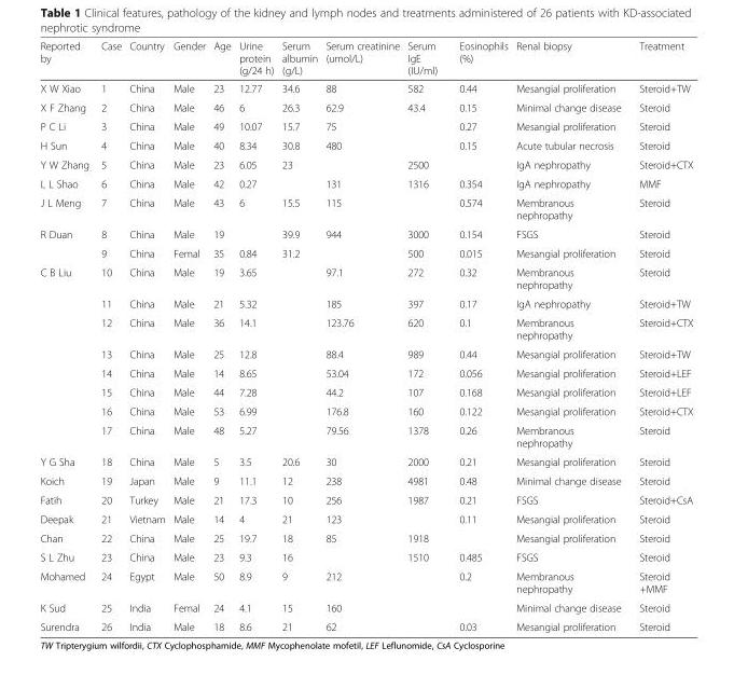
<table><thead><tr><td>Reported by</td><td>Case</td><td>Country</td><td>Gender</td><td>Age</td><td>Urine protein (g/24 h)</td><td>Serum albumin (g/L)</td><td>Serum creatinine (umol/L)</td><td>Serum IgE (IU/ml)</td><td>Eosinophils (%)</td><td>Renal biopsy</td><td>Treatment</td></tr></thead><tbody><tr><td>X W Xiao</td><td>1</td><td>China</td><td>Male</td><td>23</td><td>12.77</td><td>34.6</td><td>88</td><td>582</td><td>0.44</td><td>Mesangial proliferation</td><td>Steroid+TW</td></tr><tr><td>X F Zhang</td><td>2</td><td>China</td><td>Male</td><td>46</td><td>6</td><td>26.3</td><td>62.9</td><td>43.4</td><td>0.15</td><td>Minimal change disease</td><td>Steroid</td></tr><tr><td>P C Li</td><td>3</td><td>China</td><td>Male</td><td>49</td><td>10.07</td><td>15.7</td><td>75</td><td></td><td>0.27</td><td>Mesangial proliferation</td><td>Steroid</td></tr><tr><td>H Sun</td><td>4</td><td>China</td><td>Male</td><td>40</td><td>8.34</td><td>30.8</td><td>480</td><td></td><td>0.15</td><td>Acute tubular necrosis</td><td>Steroid</td></tr><tr><td>Y W Zhang</td><td>5</td><td>China</td><td>Male</td><td>23</td><td>6.05</td><td>23</td><td></td><td>2500</td><td></td><td>IgA nephropathy</td><td>Steroid+CTX</td></tr><tr><td>L L Shao</td><td>6</td><td>China</td><td>Male</td><td>42</td><td>0.27</td><td></td><td>131</td><td>1316</td><td>0.354</td><td>IgA nephropathy</td><td>MMF</td></tr><tr><td>J L Meng</td><td>7</td><td>China</td><td>Male</td><td>43</td><td>6</td><td>15.5</td><td>115</td><td></td><td>0.574</td><td>Membranous nephropathy</td><td>Steroid</td></tr><tr><td rowspan="2">R Duan</td><td>8</td><td>China</td><td>Male</td><td>19</td><td></td><td>39.9</td><td>944</td><td>3000</td><td>0.154</td><td>FSGS</td><td>Steroid</td></tr><tr><td>9</td><td>China</td><td>Femal</td><td>35</td><td>0.84</td><td>31.2</td><td></td><td>500</td><td>0.015</td><td>Mesangial proliferation</td><td>Steroid</td></tr><tr><td rowspan="8">C B Liu</td><td>10</td><td>China</td><td>Male</td><td>19</td><td>3.65</td><td></td><td>97.1</td><td>272</td><td>0.32</td><td>Membranous nephropathy</td><td>Steroid</td></tr><tr><td>11</td><td>China</td><td>Male</td><td>21</td><td>5.32</td><td></td><td>185</td><td>397</td><td>0.17</td><td>IgA nephropathy</td><td>Steroid+TW</td></tr><tr><td>12</td><td>China</td><td>Male</td><td>36</td><td>14.1</td><td></td><td>123.76</td><td>620</td><td>0.1</td><td>Membranous nephropathy</td><td>Steroid+CTX</td></tr><tr><td>13</td><td>China</td><td>Male</td><td>25</td><td>12.8</td><td></td><td>88.4</td><td>989</td><td>0.44</td><td>Mesangial proliferation</td><td>Steroid+TW</td></tr><tr><td>14</td><td>China</td><td>Male</td><td>14</td><td>8.65</td><td></td><td>53.04</td><td>172</td><td>0.056</td><td>Mesangial proliferation</td><td>Steroid+LEF</td></tr><tr><td>15</td><td>China</td><td>Male</td><td>44</td><td>7.28</td><td></td><td>44.2</td><td>107</td><td>0.168</td><td>Mesangial proliferation</td><td>Steroid+LEF</td></tr><tr><td>16</td><td>China</td><td>Male</td><td>53</td><td>6.99</td><td></td><td>176.8</td><td>160</td><td>0.122</td><td>Mesangial proliferation</td><td>Steroid+CTX</td></tr><tr><td>17</td><td>China</td><td>Male</td><td>48</td><td>5.27</td><td></td><td>79.56</td><td>1378</td><td>0.26</td><td>Membranous nephropathy</td><td>Steroid</td></tr><tr><td>Y G Sha</td><td>18</td><td>China</td><td>Male</td><td>5</td><td>3.5</td><td>20.6</td><td>30</td><td>2000</td><td>0.21</td><td>Mesangial proliferation</td><td>Steroid</td></tr><tr><td>Koich</td><td>19</td><td>Japan</td><td>Male</td><td>9</td><td>11.1</td><td>12</td><td>238</td><td>4981</td><td>0.48</td><td>Minimal change disease</td><td>Steroid</td></tr><tr><td>Fatih</td><td>20</td><td>Turkey</td><td>Male</td><td>21</td><td>17.3</td><td>10</td><td>256</td><td>1987</td><td>0.21</td><td>FSGS</td><td>Steroid+CsA</td></tr><tr><td>Deepak</td><td>21</td><td>Vietnam</td><td>Male</td><td>14</td><td>4</td><td>21</td><td>123</td><td></td><td>0.11</td><td>Mesangial proliferation</td><td>Steroid</td></tr><tr><td>Chan</td><td>22</td><td>China</td><td>Male</td><td>25</td><td>19.7</td><td>18</td><td>85</td><td>1918</td><td></td><td>Mesangial proliferation</td><td>Steroid</td></tr><tr><td>S L Zhu</td><td>23</td><td>China</td><td>Male</td><td>23</td><td>9.3</td><td>16</td><td></td><td>1510</td><td>0.485</td><td>FSGS</td><td>Steroid</td></tr><tr><td>Mohamed</td><td>24</td><td>Egypt</td><td>Male</td><td>50</td><td>8.9</td><td>9</td><td>212</td><td></td><td>0.2</td><td>Membranous nephropathy</td><td>Steroid +MMF</td></tr><tr><td>K Sud</td><td>25</td><td>India</td><td>Femal</td><td>24</td><td>4.1</td><td>15</td><td>160</td><td></td><td></td><td>Minimal change disease</td><td>Steroid</td></tr><tr><td>Surendra</td><td>26</td><td>India</td><td>Male</td><td>18</td><td>8.6</td><td>21</td><td>62</td><td></td><td>0.03</td><td>Mesangial proliferation</td><td>Steroid</td></tr></tbody></table>